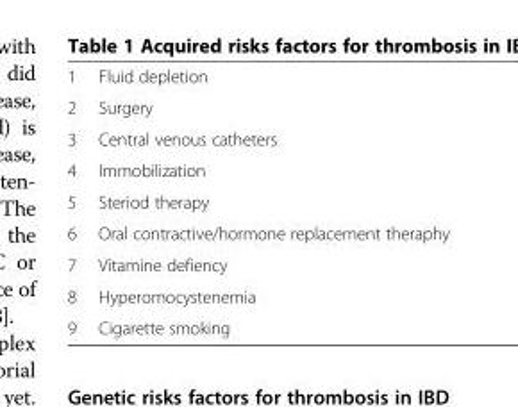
<table><tbody><tr><td>1</td><td>Fluid depletion</td></tr><tr><td>2</td><td>Surgery</td></tr><tr><td>3</td><td>Central venous catheters</td></tr><tr><td>4</td><td>Immobilization</td></tr><tr><td>5</td><td>Steriod therapy</td></tr><tr><td>6</td><td>Oral contractive/hormone replacement theraphy</td></tr><tr><td>7</td><td>Vitamine defiency</td></tr><tr><td>8</td><td>Hyperomocystenemia</td></tr><tr><td>9</td><td>Cigarette smoking</td></tr></tbody></table>